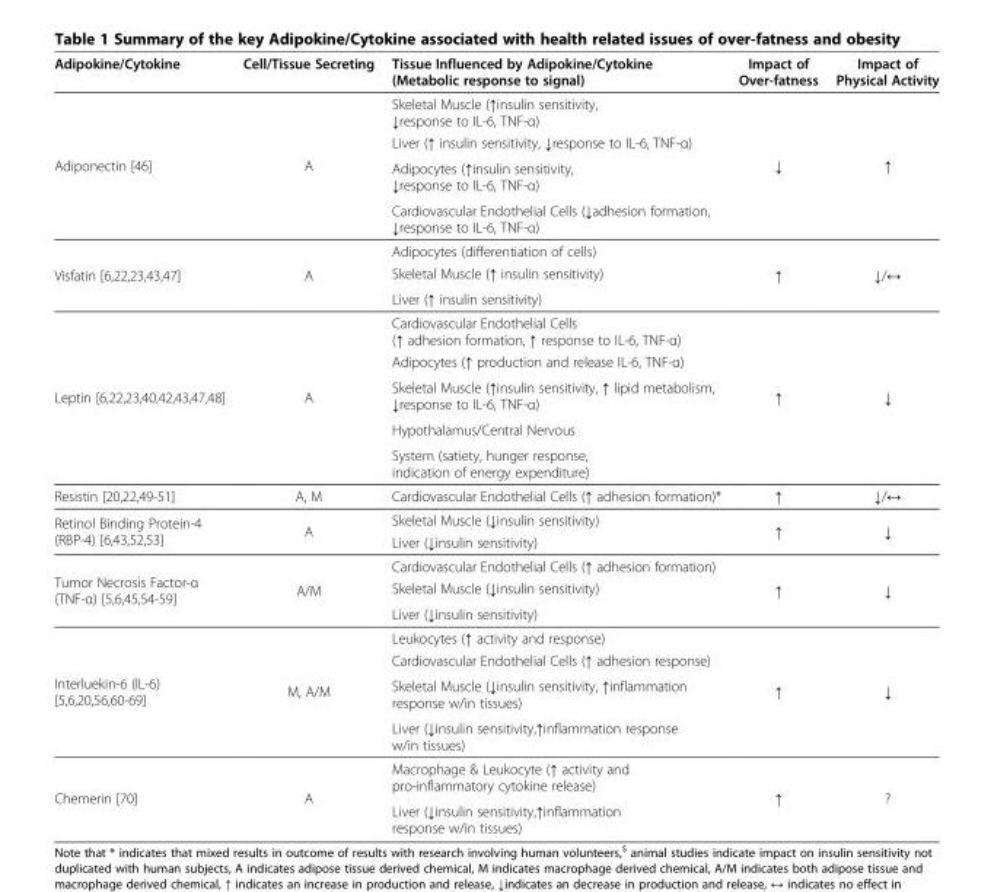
<table><thead><tr><td>Adipokine/Cytokine</td><td>Cell/Tissue Secreting</td><td>Tissue Influenced by Adipokine/Cytokine (Metabolic response to signal)</td><td>Impact of Over-fatness</td><td>Impact of Physical Activity</td></tr></thead><tbody><tr><td rowspan="4">Adiponectin [46]</td><td rowspan="4">A</td><td>Skeletal Muscle (↑insulin sensitivity, ↓response to IL-6, TNF-α)</td><td rowspan="4">↓</td><td rowspan="4">↑</td></tr><tr><td>Liver (↑ insulin sensitivity, ↓response to IL-6, TNF-α)</td></tr><tr><td>Adipocytes (↑insulin sensitivity, ↓response to IL-6, TNF-α)</td></tr><tr><td>Cardiovascular Endothelial Cells (↓adhesion formation, ↓response to IL-6, TNF-α)</td></tr><tr><td rowspan="3">Visfatin [6,22,23,43,47]</td><td rowspan="3">A</td><td>Adipocytes (differentiation of cells)</td><td rowspan="3">↑</td><td rowspan="3">↓/↔</td></tr><tr><td>Skeletal Muscle (↑ insulin sensitivity)</td></tr><tr><td>Liver (↑ insulin sensitivity)</td></tr><tr><td rowspan="5">Leptin [6,22,23,40,42,43,47,48]</td><td rowspan="5">A</td><td>Cardiovascular Endothelial Cells (↑ adhesion formation, ↑ response to IL-6, TNF-α)</td><td rowspan="5">↑</td><td rowspan="5">↓</td></tr><tr><td>Adipocytes (↑ production and release IL-6, TNF-α)</td></tr><tr><td>Skeletal Muscle (↑insulin sensitivity, ↑ lipid metabolism, ↓response to IL-6, TNF-α)</td></tr><tr><td>Hypothalamus/Central Nervous</td></tr><tr><td>System (satiety, hunger response, indication of energy expenditure)</td></tr><tr><td>Resistin [20,22,49-51]</td><td>A, M</td><td>Cardiovascular Endothelial Cells (↑ adhesion formation)*</td><td>↑</td><td>↓/↔</td></tr><tr><td rowspan="2">Retinol Binding Protein-4 (RBP-4) [6,43,52,53]</td><td rowspan="2">A</td><td>Skeletal Muscle (↓insulin sensitivity)</td><td rowspan="2">↑</td><td rowspan="2">↓</td></tr><tr><td>Liver (↓insulin sensitivity)</td></tr><tr><td rowspan="3">Tumor Necrosis Factor-α (TNF-α) [5,6,45,54-59]</td><td rowspan="3">A/M</td><td>Cardiovascular Endothelial Cells (↑ adhesion formation)</td><td rowspan="3">↑</td><td rowspan="3">↓</td></tr><tr><td>Skeletal Muscle (↓insulin sensitivity)</td></tr><tr><td>Liver (↓insulin sensitivity)</td></tr><tr><td rowspan="4">Interluekin-6 (IL-6) [5,6,20,56,60-69]</td><td rowspan="4">M, A/M</td><td>Leukocytes (↑ activity and response)</td><td rowspan="4">↑</td><td rowspan="4">↓</td></tr><tr><td>Cardiovascular Endothelial Cells (↑ adhesion response)</td></tr><tr><td>Skeletal Muscle (↓insulin sensitivity, ↑inflammation response w/in tissues)</td></tr><tr><td>Liver (↓insulin sensitivity,↑inflammation response w/in tissues)</td></tr><tr><td rowspan="2">Chemerin [70]</td><td rowspan="2">A</td><td>Macrophage &amp; Leukocyte (↑ activity and pro-inflammatory cytokine release)</td><td rowspan="2">↑</td><td rowspan="2">?</td></tr><tr><td>Liver (↓insulin sensitivity,↑inflammation response w/in tissues)</td></tr></tbody></table>